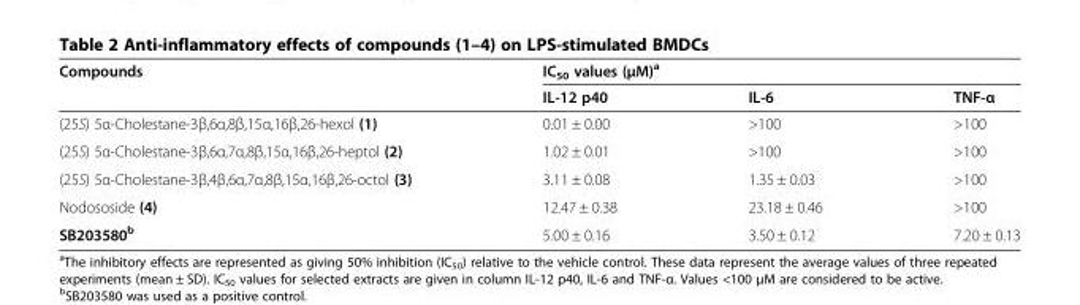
<table><thead><tr><td rowspan="2">Compounds</td><td colspan="3">IC<sub>50</sub> values (μM)<sup>a</sup></td></tr><tr><td>IL-12 p40</td><td>IL-6</td><td>TNF-α</td></tr></thead><tbody><tr><td>(25S) 5α-Cholestane-3β,6α,8β,15α,16β,26-hexol (1)</td><td>0.01 ± 0.00</td><td>&gt;100</td><td>&gt;100</td></tr><tr><td>(25S) 5α-Cholestane-3β,6α,7α,8β,15α,16β,26-heptol (2)</td><td>1.02 ± 0.01</td><td>&gt;100</td><td>&gt;100</td></tr><tr><td>(25S) 5α-Cholestane-3β,4β,6α,7α,8β,15α,16β,26-octol (3)</td><td>3.11 ± 0.08</td><td>1.35 ± 0.03</td><td>&gt;100</td></tr><tr><td>Nodososide (4)</td><td>12.47 ± 0.38</td><td>23.18 ± 0.46</td><td>&gt;100</td></tr><tr><td>SB203580<sup>b</sup></td><td>5.00 ± 0.16</td><td>3.50 ± 0.12</td><td>7.20 ± 0.13</td></tr></tbody></table>